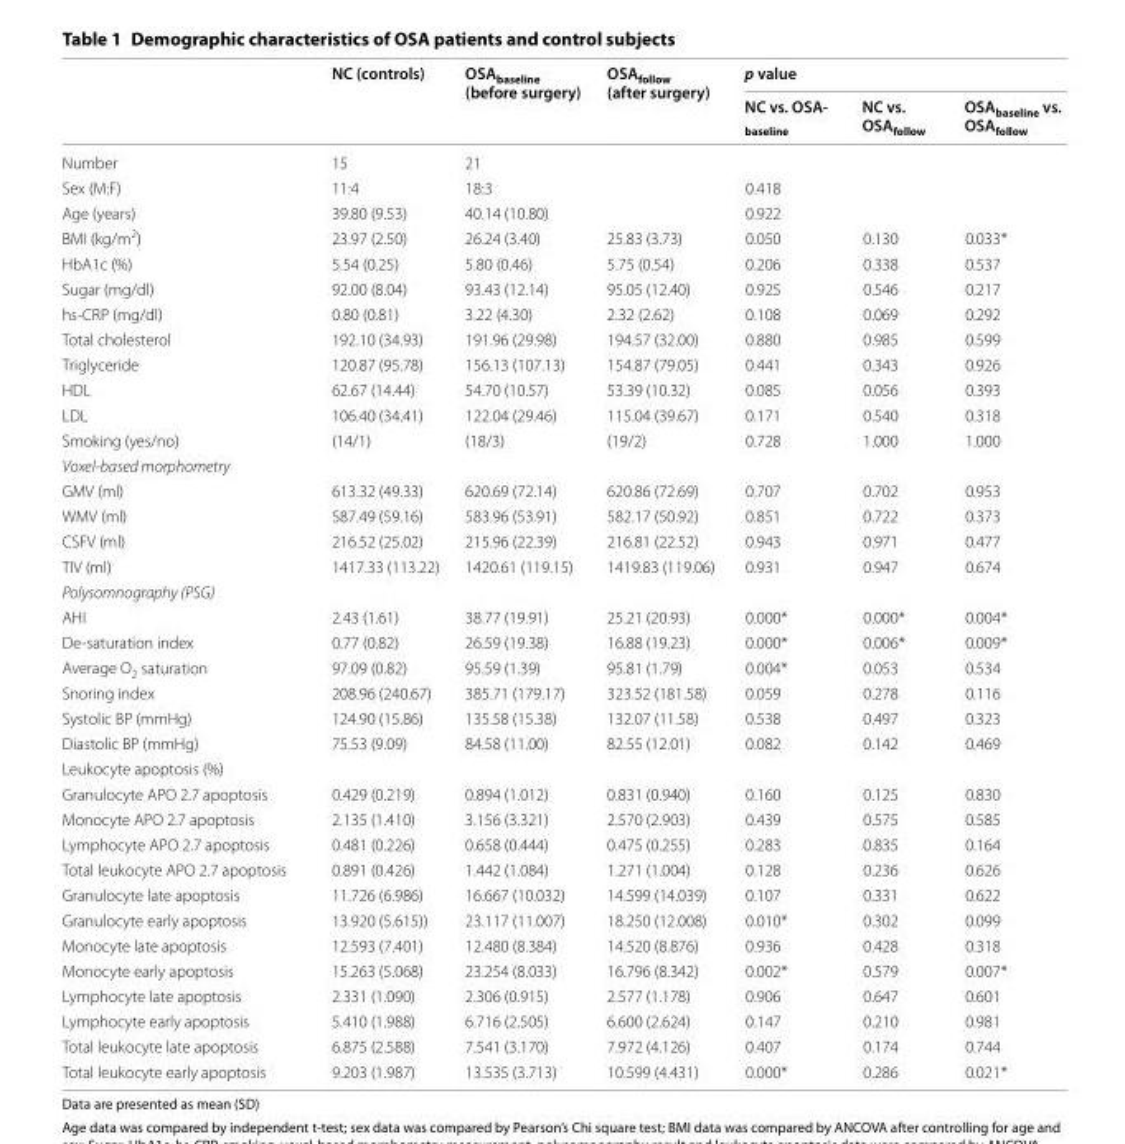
<table><thead><tr><td rowspan="2"></td><td rowspan="2">NC (controls)</td><td rowspan="2">OSA<sub>baseline</sub> (before surgery)</td><td rowspan="2">OSA<sub>follow</sub> (after surgery)</td><td colspan="3">p value</td></tr><tr><td>NC vs. OSA- baseline</td><td>NC vs. OSA<sub>follow</sub></td><td>OSA<sub>baseline</sub> vs. OSA<sub>follow</sub></td></tr></thead><tbody><tr><td>Number</td><td>15</td><td>21</td><td></td><td></td><td></td><td></td></tr><tr><td>Sex (M:F)</td><td>11:4</td><td>18:3</td><td></td><td>0.418</td><td></td><td></td></tr><tr><td>Age (years)</td><td>39.80 (9.53)</td><td>40.14 (10.80)</td><td></td><td>0.922</td><td></td><td></td></tr><tr><td>BMI (kg/m<sup>2</sup>)</td><td>23.97 (2.50)</td><td>26.24 (3.40)</td><td>25.83 (3.73)</td><td>0.050</td><td>0.130</td><td>0.033*</td></tr><tr><td>HbA1c (%)</td><td>5.54 (0.25)</td><td>5.80 (0.46)</td><td>5.75 (0.54)</td><td>0.206</td><td>0.338</td><td>0.537</td></tr><tr><td>Sugar (mg/dl)</td><td>92.00 (8.04)</td><td>93.43 (12.14)</td><td>95.05 (12.40)</td><td>0.925</td><td>0.546</td><td>0.217</td></tr><tr><td>hs‑CRP (mg/dl)</td><td>0.80 (0.81)</td><td>3.22 (4.30)</td><td>2.32 (2.62)</td><td>0.108</td><td>0.069</td><td>0.292</td></tr><tr><td>Total cholesterol</td><td>192.10 (34.93)</td><td>191.96 (29.98)</td><td>194.57 (32.00)</td><td>0.880</td><td>0.985</td><td>0.599</td></tr><tr><td>Triglyceride</td><td>120.87 (95.78)</td><td>156.13 (107.13)</td><td>154.87 (79.05)</td><td>0.441</td><td>0.343</td><td>0.926</td></tr><tr><td>HDL</td><td>62.67 (14.44)</td><td>54.70 (10.57)</td><td>53.39 (10.32)</td><td>0.085</td><td>0.056</td><td>0.393</td></tr><tr><td>LDL</td><td>106.40 (34.41)</td><td>122.04 (29.46)</td><td>115.04 (39.67)</td><td>0.171</td><td>0.540</td><td>0.318</td></tr><tr><td>Smoking (yes/no)</td><td>(14/1)</td><td>(18/3)</td><td>(19/2)</td><td>0.728</td><td>1.000</td><td>1.000</td></tr><tr><td colspan="7">Voxel-based morphometry</td></tr><tr><td>GMV (ml)</td><td>613.32 (49.33)</td><td>620.69 (72.14)</td><td>620.86 (72.69)</td><td>0.707</td><td>0.702</td><td>0.953</td></tr><tr><td>WMV (ml)</td><td>587.49 (59.16)</td><td>583.96 (53.91)</td><td>582.17 (50.92)</td><td>0.851</td><td>0.722</td><td>0.373</td></tr><tr><td>CSFV (ml)</td><td>216.52 (25.02)</td><td>215.96 (22.39)</td><td>216.81 (22.52)</td><td>0.943</td><td>0.971</td><td>0.477</td></tr><tr><td>TIV (ml)</td><td>1417.33 (113.22)</td><td>1420.61 (119.15)</td><td>1419.83 (119.06)</td><td>0.931</td><td>0.947</td><td>0.674</td></tr><tr><td colspan="7">Polysomnography (PSG)</td></tr><tr><td>AHI</td><td>2.43 (1.61)</td><td>38.77 (19.91)</td><td>25.21 (20.93)</td><td>0.000*</td><td>0.000*</td><td>0.004*</td></tr><tr><td>De‑saturation index</td><td>0.77 (0.82)</td><td>26.59 (19.38)</td><td>16.88 (19.23)</td><td>0.000*</td><td>0.006*</td><td>0.009*</td></tr><tr><td>Average O<sub>2</sub> saturation</td><td>97.09 (0.82)</td><td>95.59 (1.39)</td><td>95.81 (1.79)</td><td>0.004*</td><td>0.053</td><td>0.534</td></tr><tr><td>Snoring index</td><td>208.96 (240.67)</td><td>385.71 (179.17)</td><td>323.52 (181.58)</td><td>0.059</td><td>0.278</td><td>0.116</td></tr><tr><td>Systolic BP (mmHg)</td><td>124.90 (15.86)</td><td>135.58 (15.38)</td><td>132.07 (11.58)</td><td>0.538</td><td>0.497</td><td>0.323</td></tr><tr><td>Diastolic BP (mmHg)</td><td>75.53 (9.09)</td><td>84.58 (11.00)</td><td>82.55 (12.01)</td><td>0.082</td><td>0.142</td><td>0.469</td></tr><tr><td colspan="7">Leukocyte apoptosis (%)</td></tr><tr><td>Granulocyte APO 2.7 apoptosis</td><td>0.429 (0.219)</td><td>0.894 (1.012)</td><td>0.831 (0.940)</td><td>0.160</td><td>0.125</td><td>0.830</td></tr><tr><td>Monocyte APO 2.7 apoptosis</td><td>2.135 (1.410)</td><td>3.156 (3.321)</td><td>2.570 (2.903)</td><td>0.439</td><td>0.575</td><td>0.585</td></tr><tr><td>Lymphocyte APO 2.7 apoptosis</td><td>0.481 (0.226)</td><td>0.658 (0.444)</td><td>0.475 (0.255)</td><td>0.283</td><td>0.835</td><td>0.164</td></tr><tr><td>Total leukocyte APO 2.7 apoptosis</td><td>0.891 (0.426)</td><td>1.442 (1.084)</td><td>1.271 (1.004)</td><td>0.128</td><td>0.236</td><td>0.626</td></tr><tr><td>Granulocyte late apoptosis</td><td>11.726 (6.986)</td><td>16.667 (10.032)</td><td>14.599 (14.039)</td><td>0.107</td><td>0.331</td><td>0.622</td></tr><tr><td>Granulocyte early apoptosis</td><td>13.920 (5.615))</td><td>23.117 (11.007)</td><td>18.250 (12.008)</td><td>0.010*</td><td>0.302</td><td>0.099</td></tr><tr><td>Monocyte late apoptosis</td><td>12.593 (7.401)</td><td>12.480 (8.384)</td><td>14.520 (8.876)</td><td>0.936</td><td>0.428</td><td>0.318</td></tr><tr><td>Monocyte early apoptosis</td><td>15.263 (5.068)</td><td>23.254 (8.033)</td><td>16.796 (8.342)</td><td>0.002*</td><td>0.579</td><td>0.007*</td></tr><tr><td>Lymphocyte late apoptosis</td><td>2.331 (1.090)</td><td>2.306 (0.915)</td><td>2.577 (1.178)</td><td>0.906</td><td>0.647</td><td>0.601</td></tr><tr><td>Lymphocyte early apoptosis</td><td>5.410 (1.988)</td><td>6.716 (2.505)</td><td>6.600 (2.624)</td><td>0.147</td><td>0.210</td><td>0.981</td></tr><tr><td>Total leukocyte late apoptosis</td><td>6.875 (2.588)</td><td>7.541 (3.170)</td><td>7.972 (4.126)</td><td>0.407</td><td>0.174</td><td>0.744</td></tr><tr><td>Total leukocyte early apoptosis</td><td>9.203 (1.987)</td><td>13.535 (3.713)</td><td>10.599 (4.431)</td><td>0.000*</td><td>0.286</td><td>0.021*</td></tr></tbody></table>